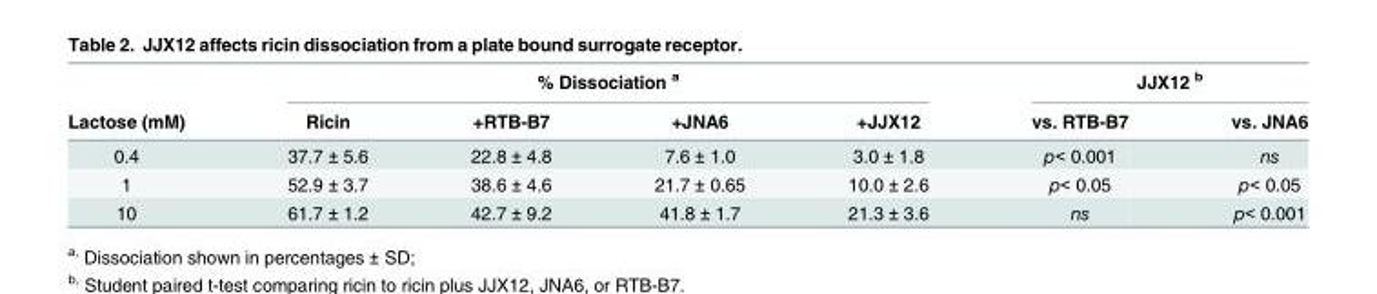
<table><thead><tr><td rowspan="2">Lactose (mM)</td><td colspan="4">% Dissociation <sup>a</sup></td><td colspan="2">JJX12 <sup>b</sup></td></tr><tr><td>Ricin</td><td>+RTB-B7</td><td>+JNA6</td><td>+JJX12</td><td>vs. RTB-B7</td><td>vs. JNA6</td></tr></thead><tbody><tr><td>0.4</td><td>37.7 ± 5.6</td><td>22.8 ± 4.8</td><td>7.6 ± 1.0</td><td>3.0 ± 1.8</td><td>p&lt; 0.001</td><td>ns</td></tr><tr><td>1</td><td>52.9 ± 3.7</td><td>38.6 ± 4.6</td><td>21.7 ± 0.65</td><td>10.0 ± 2.6</td><td>p&lt; 0.05</td><td>p&lt; 0.05</td></tr><tr><td>10</td><td>61.7 ± 1.2</td><td>42.7 ± 9.2</td><td>41.8 ± 1.7</td><td>21.3 ± 3.6</td><td>ns</td><td>p&lt; 0.001</td></tr></tbody></table>